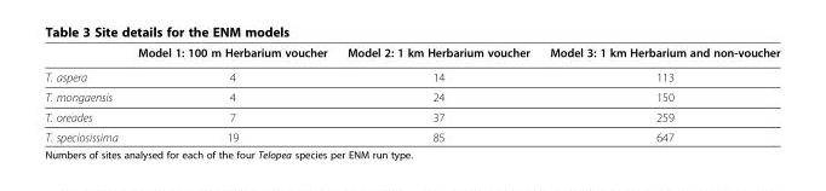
<table><thead><tr><td></td><td>Model 1: 100 m Herbarium voucher</td><td>Model 2: 1 km Herbarium voucher</td><td>Model 3: 1 km Herbarium and non-voucher</td></tr></thead><tbody><tr><td>T. aspera</td><td>4</td><td>14</td><td>113</td></tr><tr><td>T. mongaensis</td><td>4</td><td>24</td><td>150</td></tr><tr><td>T. oreades</td><td>7</td><td>37</td><td>259</td></tr><tr><td>T. speciosissima</td><td>19</td><td>85</td><td>647</td></tr></tbody></table>